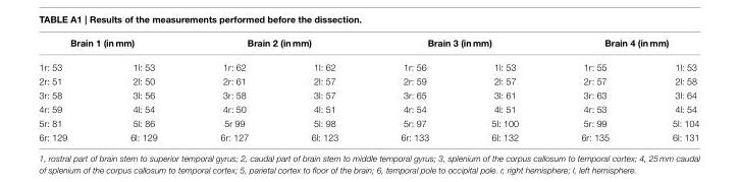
<table><thead><tr><td colspan="2">Brain 1 (in mm)</td><td colspan="2">Brain 2 (in mm)</td><td colspan="2">Brain 3 (in mm)</td><td colspan="2">Brain 4 (in mm)</td></tr><tr><td>1r: 53</td><td>1l: 53</td><td>1r: 62</td><td>1l: 62</td><td>1r: 56</td><td>1l: 53</td><td>1r: 55</td><td>1l: 53</td></tr></thead><tbody><tr><td>2r: 51</td><td>2l: 50</td><td>2r: 61</td><td>2l: 57</td><td>2r: 59</td><td>2l: 57</td><td>2r: 57</td><td>2l: 58</td></tr><tr><td>3r: 58</td><td>3l: 56</td><td>3r: 58</td><td>3l: 57</td><td>3r: 65</td><td>3l: 61</td><td>3r: 63</td><td>3l: 64</td></tr><tr><td>4r: 59</td><td>4l: 54</td><td>4r: 50</td><td>4l: 51</td><td>4r: 54</td><td>4l: 51</td><td>4r: 53</td><td>4l: 54</td></tr><tr><td>5r: 81</td><td>5l: 86</td><td>5r 99</td><td>5l: 98</td><td>5r: 97</td><td>5l: 100</td><td>5r: 99</td><td>5l: 104</td></tr><tr><td>6r: 129</td><td>6l: 129</td><td>6r: 127</td><td>6l: 123</td><td>6r: 133</td><td>6l: 132</td><td>6r: 135</td><td>6l: 131</td></tr></tbody></table>